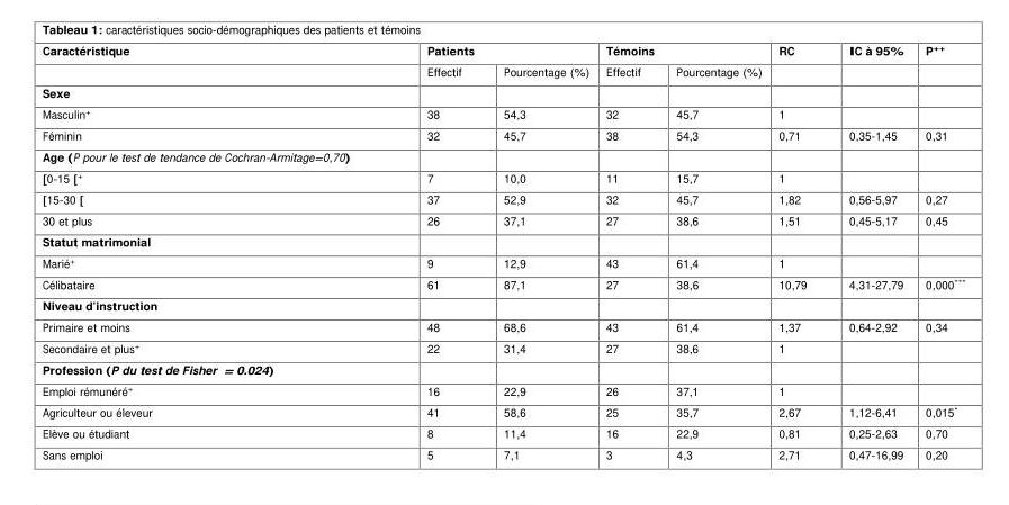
<table><thead><tr><td rowspan="2">Caractéristique</td><td colspan="2">Patients</td><td colspan="2">Témoins</td><td rowspan="2">RC</td><td rowspan="2">IC à 95%</td><td rowspan="2">P<sup>++</sup></td></tr><tr><td>Effectif</td><td>Pourcentage (%)</td><td>Effectif</td><td>Pourcentage (%)</td></tr></thead><tbody><tr><td colspan="8">Sexe</td></tr><tr><td>Masculin<sup>+</sup></td><td>38</td><td>54,3</td><td>32</td><td>45,7</td><td>1</td><td></td><td></td></tr><tr><td>Féminin</td><td>32</td><td>45,7</td><td>38</td><td>54,3</td><td>0,71</td><td>0,35-1,45</td><td>0,31</td></tr><tr><td colspan="8">Age (P pour le test de tendance de Cochran-Armitage=0,70)</td></tr><tr><td>[0-15 [+</td><td>7</td><td>10,0</td><td>11</td><td>15,7</td><td>1</td><td></td><td></td></tr><tr><td>[15-30 [</td><td>37</td><td>52,9</td><td>32</td><td>45,7</td><td>1,82</td><td>0,56-5,97</td><td>0,27</td></tr><tr><td>30 et plus</td><td>26</td><td>37,1</td><td>27</td><td>38,6</td><td>1,51</td><td>0,45-5,17</td><td>0,45</td></tr><tr><td colspan="8">Statut matrimonial</td></tr><tr><td>Marié<sup>+</sup></td><td>9</td><td>12,9</td><td>43</td><td>61,4</td><td>1</td><td></td><td></td></tr><tr><td>Célibataire</td><td>61</td><td>87,1</td><td>27</td><td>38,6</td><td>10,79</td><td>4,31-27,79</td><td>0,000***</td></tr><tr><td colspan="8">Niveau d’instruction</td></tr><tr><td>Primaire et moins</td><td>48</td><td>68,6</td><td>43</td><td>61,4</td><td>1,37</td><td>0,64-2,92</td><td>0,34</td></tr><tr><td>Secondaire et plus<sup>+</sup></td><td>22</td><td>31,4</td><td>27</td><td>38,6</td><td>1</td><td></td><td></td></tr><tr><td colspan="8">Profession (P du test de Fisher = 0.024)</td></tr><tr><td>Emploi rémunéré<sup>+</sup></td><td>16</td><td>22,9</td><td>26</td><td>37,1</td><td>1</td><td></td><td></td></tr><tr><td>Agriculteur ou éleveur</td><td>41</td><td>58,6</td><td>25</td><td>35,7</td><td>2,67</td><td>1,12-6,41</td><td>0,015*</td></tr><tr><td>Elève ou étudiant</td><td>8</td><td>11,4</td><td>16</td><td>22,9</td><td>0,81</td><td>0,25-2,63</td><td>0,70</td></tr><tr><td>Sans emploi</td><td>5</td><td>7,1</td><td>3</td><td>4,3</td><td>2,71</td><td>0,47-16,99</td><td>0,20</td></tr></tbody></table>